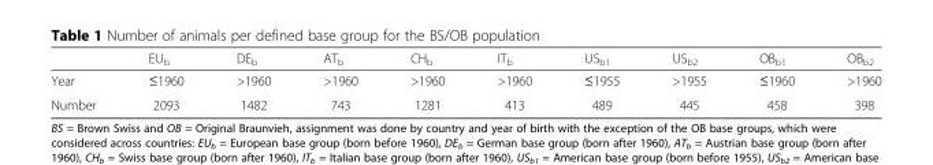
<table><thead><tr><td></td><td>EU<sub>b</sub></td><td>DE<sub>b</sub></td><td>AT<sub>b</sub></td><td>CH<sub>b</sub></td><td>IT<sub>b</sub></td><td>US<sub>b1</sub></td><td>US<sub>b2</sub></td><td>OB<sub>b1</sub></td><td>OB<sub>b2</sub></td></tr></thead><tbody><tr><td>Year</td><td>≤1960</td><td>&gt;1960</td><td>&gt;1960</td><td>&gt;1960</td><td>&gt;1960</td><td>≤1955</td><td>&gt;1955</td><td>≤1960</td><td>&gt;1960</td></tr><tr><td>Number</td><td>2093</td><td>1482</td><td>743</td><td>1281</td><td>413</td><td>489</td><td>445</td><td>458</td><td>398</td></tr></tbody></table>